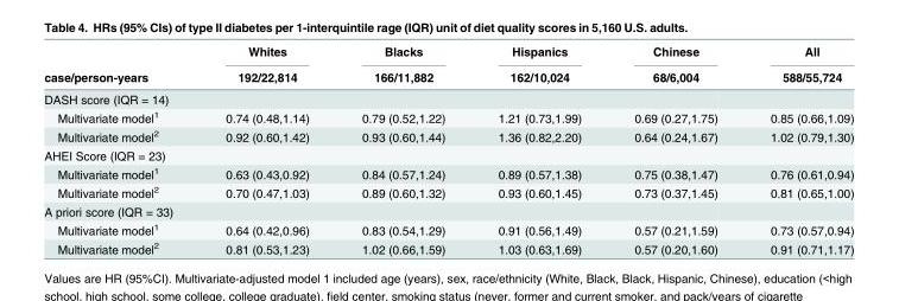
<table><thead><tr><td rowspan="2">case/person-years</td><td rowspan="2">Whites 192/22,814</td><td rowspan="2">Blacks 166/11,882</td><td rowspan="2">Hispanics 162/10,024</td><td rowspan="2">Chinese 68/6,004</td><td rowspan="2">All 588/55,724</td></tr><tr></tr></thead><tbody><tr><td colspan="6">DASH score (IQR = 14)</td></tr><tr><td>Multivariate model<sup>1</sup></td><td>0.74 (0.48,1.14)</td><td>0.79 (0.52,1.22)</td><td>1.21 (0.73,1.99)</td><td>0.69 (0.27,1.75)</td><td>0.85 (0.66,1.09)</td></tr><tr><td>Multivariate model<sup>2</sup></td><td>0.92 (0.60,1.42)</td><td>0.93 (0.60,1.44)</td><td>1.36 (0.82,2.20)</td><td>0.64 (0.24,1.67)</td><td>1.02 (0.79,1.30)</td></tr><tr><td colspan="6">AHEI Score (IQR = 23)</td></tr><tr><td>Multivariate model<sup>1</sup></td><td>0.63 (0.43,0.92)</td><td>0.84 (0.57,1.24)</td><td>0.89 (0.57,1.38)</td><td>0.75 (0.38,1.47)</td><td>0.76 (0.61,0.94)</td></tr><tr><td>Multivariate model<sup>2</sup></td><td>0.70 (0.47,1.03)</td><td>0.89 (0.60,1.32)</td><td>0.93 (0.60,1.45)</td><td>0.73 (0.37,1.45)</td><td>0.81 (0.65,1.00)</td></tr><tr><td colspan="6">A priori score (IQR = 33)</td></tr><tr><td>Multivariate model<sup>1</sup></td><td>0.64 (0.42,0.96)</td><td>0.83 (0.54,1.29)</td><td>0.91 (0.56,1.49)</td><td>0.57 (0.21,1.59)</td><td>0.73 (0.57,0.94)</td></tr><tr><td>Multivariate model<sup>2</sup></td><td>0.81 (0.53,1.23)</td><td>1.02 (0.66,1.59)</td><td>1.03 (0.63,1.69)</td><td>0.57 (0.20,1.60)</td><td>0.91 (0.71,1.17)</td></tr></tbody></table>